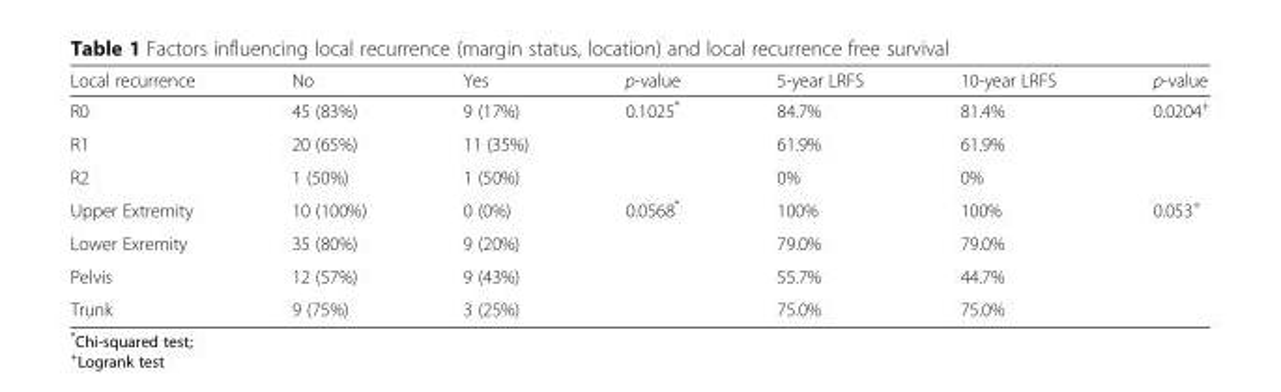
<table><thead><tr><td>Local recurrence</td><td>No</td><td>Yes</td><td>p-value</td><td>5-year LRFS</td><td>10-year LRFS</td><td>p-value</td></tr></thead><tbody><tr><td>R0</td><td>45 (83%)</td><td>9 (17%)</td><td rowspan="3">0.1025*</td><td>84.7%</td><td>81.4%</td><td rowspan="3">0.0204<sup>+</sup></td></tr><tr><td>R1</td><td>20 (65%)</td><td>11 (35%)</td><td>61.9%</td><td>61.9%</td></tr><tr><td>R2</td><td>1 (50%)</td><td>1 (50%)</td><td>0%</td><td>0%</td></tr><tr><td>Upper Extremity</td><td>10 (100%)</td><td>0 (0%)</td><td rowspan="4">0.0568*</td><td>100%</td><td>100%</td><td rowspan="4">0.053<sup>+</sup></td></tr><tr><td>Lower Exremity</td><td>35 (80%)</td><td>9 (20%)</td><td>79.0%</td><td>79.0%</td></tr><tr><td>Pelvis</td><td>12 (57%)</td><td>9 (43%)</td><td>55.7%</td><td>44.7%</td></tr><tr><td>Trunk</td><td>9 (75%)</td><td>3 (25%)</td><td>75.0%</td><td>75.0%</td></tr></tbody></table>